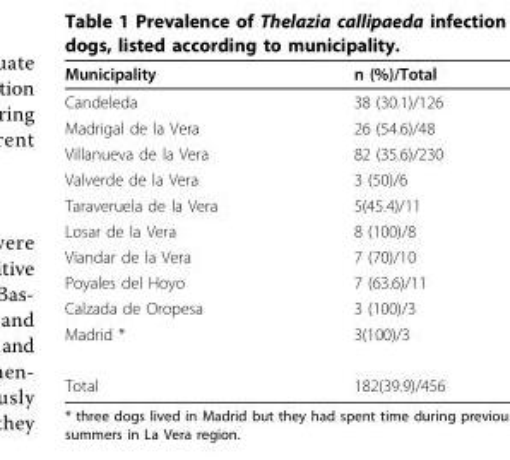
<table><thead><tr><td>Municipality</td><td>n (%)/Total</td></tr></thead><tbody><tr><td>Candeleda</td><td>38 (30.1)/126</td></tr><tr><td>Madrigal de la Vera</td><td>26 (54.6)/48</td></tr><tr><td>Villanueva de la Vera</td><td>82 (35.6)/230</td></tr><tr><td>Valverde de la Vera</td><td>3 (50)/6</td></tr><tr><td>Taraveruela de la Vera</td><td>5(45.4)/11</td></tr><tr><td>Losar de la Vera</td><td>8 (100)/8</td></tr><tr><td>Viandar de la Vera</td><td>7 (70)/10</td></tr><tr><td>Poyales del Hoyo</td><td>7 (63.6)/11</td></tr><tr><td>Calzada de Oropesa</td><td>3 (100)/3</td></tr><tr><td>Madrid *</td><td>3(100)/3</td></tr><tr><td>Total</td><td>182(39.9)/456</td></tr></tbody></table>